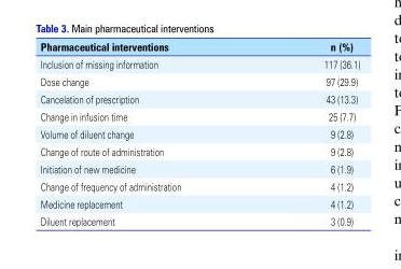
<table><thead><tr><td>Pharmaceutical interventions</td><td>n (%)</td></tr></thead><tbody><tr><td>Inclusion of missing information</td><td>117 (36.1)</td></tr><tr><td>Dose change</td><td>97 (29.9)</td></tr><tr><td>Cancelation of prescription</td><td>43 (13.3)</td></tr><tr><td>Change in infusion time</td><td>25 (7.7)</td></tr><tr><td>Volume of diluent change</td><td>9 (2.8)</td></tr><tr><td>Change of route of administration</td><td>9 (2.8)</td></tr><tr><td>Initiation of new medicine</td><td>6 (1.9)</td></tr><tr><td>Change of frequency of administration</td><td>4 (1.2)</td></tr><tr><td>Medicine replacement</td><td>4 (1.2)</td></tr><tr><td>Diluent replacement</td><td>3 (0.9)</td></tr></tbody></table>